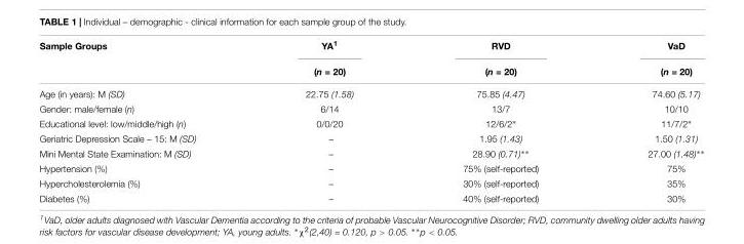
<table><thead><tr><td rowspan="2">Sample Groups</td><td rowspan="2">YA<sup>1</sup> (n = 20)</td><td rowspan="2">RVD (n = 20)</td><td rowspan="2">VaD (n = 20)</td></tr><tr></tr></thead><tbody><tr><td>Age (in years): M (SD)</td><td>22.75 (1.58)</td><td>75.85 (4.47)</td><td>74.60 (5.17)</td></tr><tr><td>Gender: male/female (n)</td><td>6/14</td><td>13/7</td><td>10/10</td></tr><tr><td>Educational level: low/middle/high (n)</td><td>0/0/20</td><td>12/6/2∗</td><td>11/7/2∗</td></tr><tr><td>Geriatric Depression Scale – 15: M (SD)</td><td>–</td><td>1.95 (1.43)</td><td>1.50 (1.31)</td></tr><tr><td>Mini Mental State Examination: M (SD)</td><td>–</td><td>28.90 (0.71)∗∗</td><td>27.00 (1.48)∗∗</td></tr><tr><td>Hypertension (%)</td><td>–</td><td>75% (self-reported)</td><td>75%</td></tr><tr><td>Hypercholesterolemia (%)</td><td>–</td><td>30% (self-reported)</td><td>35%</td></tr><tr><td>Diabetes (%)</td><td>–</td><td>40% (self-reported)</td><td>30%</td></tr></tbody></table>